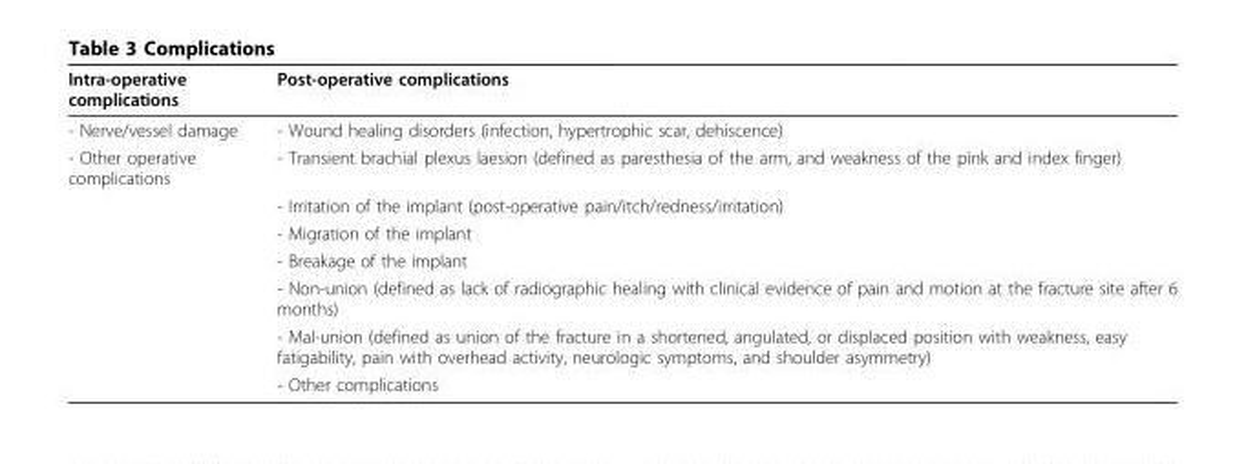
<table><thead><tr><td>Intra-operative complications</td><td>Post-operative complications</td></tr></thead><tbody><tr><td>- Nerve/vessel damage</td><td>- Wound healing disorders (infection, hypertrophic scar, dehiscence)</td></tr><tr><td rowspan="7">- Other operative complications</td><td>- Transient brachial plexus laesion (defined as paresthesia of the arm, and weakness of the pink and index finger)</td></tr><tr><td>- Irritation of the implant (post-operative pain/itch/redness/irritation)</td></tr><tr><td>- Migration of the implant</td></tr><tr><td>- Breakage of the implant</td></tr><tr><td>- Non-union (defined as lack of radiographic healing with clinical evidence of pain and motion at the fracture site after 6 months)</td></tr><tr><td>- Mal-union (defined as union of the fracture in a shortened, angulated, or displaced position with weakness, easy fatigability, pain with overhead activity, neurologic symptoms, and shoulder asymmetry)</td></tr><tr><td>- Other complications</td></tr></tbody></table>